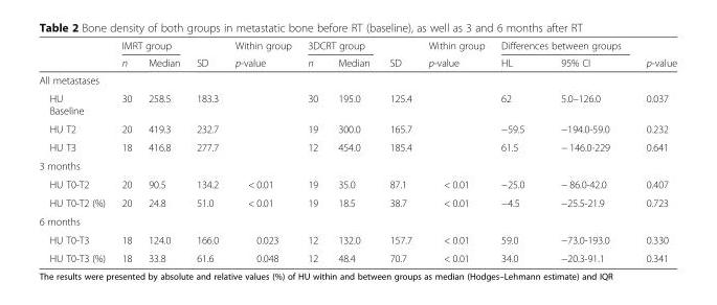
<table><thead><tr><td rowspan="2"></td><td colspan="2">IMRT group</td><td rowspan="2">SD</td><td rowspan="2">Within group p-value</td><td colspan="2">3DCRT group</td><td rowspan="2">SD</td><td rowspan="2">Within group p-value</td><td colspan="2">Differences between groups</td><td rowspan="2">p-value</td></tr><tr><td>n</td><td>Median</td><td>n</td><td>Median</td><td>HL</td><td>95% CI</td></tr></thead><tbody><tr><td colspan="12">All metastases</td></tr><tr><td>HU Baseline</td><td>30</td><td>258.5</td><td>183.3</td><td></td><td>30</td><td>195.0</td><td>125.4</td><td></td><td>62</td><td>5.0–126.0</td><td>0.037</td></tr><tr><td>HU T2</td><td>20</td><td>419.3</td><td>232.7</td><td></td><td>19</td><td>300.0</td><td>165.7</td><td></td><td>−59.5</td><td>−194.0-59.0</td><td>0.232</td></tr><tr><td>HU T3</td><td>18</td><td>416.8</td><td>277.7</td><td></td><td>12</td><td>454.0</td><td>185.4</td><td></td><td>61.5</td><td>− 146.0-229</td><td>0.641</td></tr><tr><td colspan="12">3 months</td></tr><tr><td>HU T0-T2</td><td>20</td><td>90.5</td><td>134.2</td><td>&lt; 0.01</td><td>19</td><td>35.0</td><td>87.1</td><td>&lt; 0.01</td><td>−25.0</td><td>− 86.0-42.0</td><td>0.407</td></tr><tr><td>HU T0-T2 (%)</td><td>20</td><td>24.8</td><td>51.0</td><td>&lt; 0.01</td><td>19</td><td>18.5</td><td>38.7</td><td>&lt; 0.01</td><td>−4.5</td><td>−25.5-21.9</td><td>0.723</td></tr><tr><td colspan="12">6 months</td></tr><tr><td>HU T0-T3</td><td>18</td><td>124.0</td><td>166.0</td><td>0.023</td><td>12</td><td>132.0</td><td>157.7</td><td>&lt; 0.01</td><td>59.0</td><td>−73.0-193.0</td><td>0.330</td></tr><tr><td>HU T0-T3 (%)</td><td>18</td><td>33.8</td><td>61.6</td><td>0.048</td><td>12</td><td>48.4</td><td>70.7</td><td>&lt; 0.01</td><td>34.0</td><td>−20.3-91.1</td><td>0.341</td></tr></tbody></table>